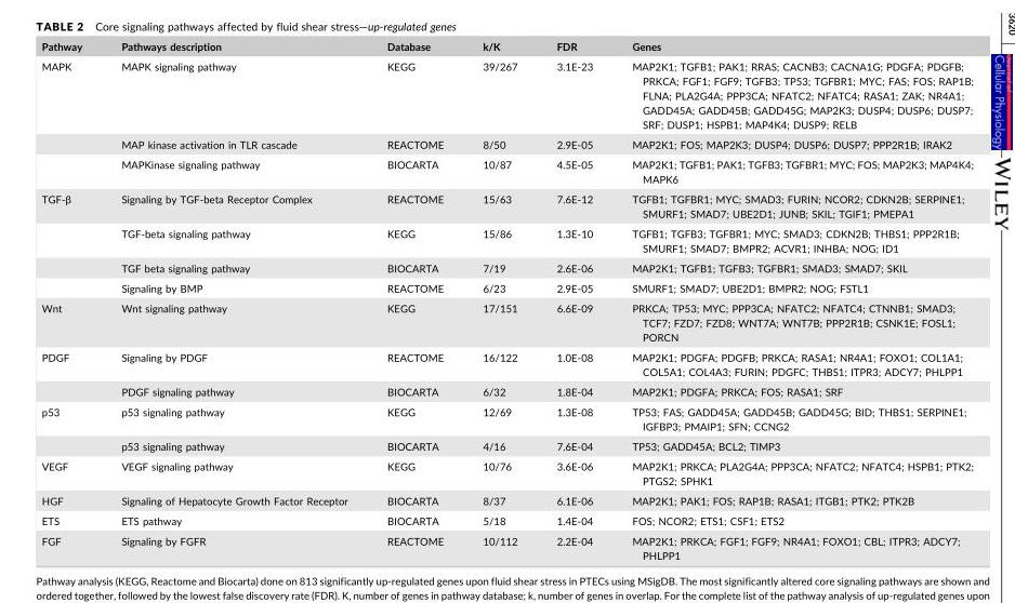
<table><thead><tr><td>Pathway</td><td>Pathways description</td><td>Database</td><td>k/K</td><td>FDR</td><td>Genes</td></tr></thead><tbody><tr><td rowspan="3">MAPK</td><td>MAPK signaling pathway</td><td>KEGG</td><td>39/267</td><td>3.1E-23</td><td>MAP2K1; TGFB1; PAK1; RRAS; CACNB3; CACNA1G; PDGFA; PDGFB; PRKCA; FGF1; FGF9; TGFB3; TP53; TGFBR1; MYC; FAS; FOS; RAP1B; FLNA; PLA2G4A; PPP3CA; NFATC2; NFATC4; RASA1; ZAK; NR4A1; GADD45A; GADD45B; GADD45G; MAP2K3; DUSP4; DUSP6; DUSP7; SRF; DUSP1; HSPB1; MAP4K4; DUSP9; RELB</td></tr><tr><td>MAP kinase activation in TLR cascade</td><td>REACTOME</td><td>8/50</td><td>2.9E-05</td><td>MAP2K1; FOS; MAP2K3; DUSP4; DUSP6; DUSP7; PPP2R1B; IRAK2</td></tr><tr><td>MAPKinase signaling pathway</td><td>BIOCARTA</td><td>10/87</td><td>4.5E-05</td><td>MAP2K1; TGFB1; PAK1; TGFB3; TGFBR1; MYC; FOS; MAP2K3; MAP4K4; MAPK6</td></tr><tr><td rowspan="4">TGF-β</td><td>Signaling by TGF-beta Receptor Complex</td><td>REACTOME</td><td>15/63</td><td>7.6E-12</td><td>TGFB1; TGFBR1; MYC; SMAD3; FURIN; NCOR2; CDKN2B; SERPINE1; SMURF1; SMAD7; UBE2D1; JUNB; SKIL; TGIF1; PMEPA1</td></tr><tr><td>TGF-beta signaling pathway</td><td>KEGG</td><td>15/86</td><td>1.3E-10</td><td>TGFB1; TGFB3; TGFBR1; MYC; SMAD3; CDKN2B; THBS1; PPP2R1B; SMURF1; SMAD7; BMPR2; ACVR1; INHBA; NOG; ID1</td></tr><tr><td>TGF beta signaling pathway</td><td>BIOCARTA</td><td>7/19</td><td>2.6E-06</td><td>MAP2K1; TGFB1; TGFB3; TGFBR1; SMAD3; SMAD7; SKIL</td></tr><tr><td>Signaling by BMP</td><td>REACTOME</td><td>6/23</td><td>2.9E-05</td><td>SMURF1; SMAD7; UBE2D1; BMPR2; NOG; FSTL1</td></tr><tr><td>Wnt</td><td>Wnt signaling pathway</td><td>KEGG</td><td>17/151</td><td>6.6E-09</td><td>PRKCA; TP53; MYC; PPP3CA; NFATC2; NFATC4; CTNNB1; SMAD3; TCF7; FZD7; FZD8; WNT7A; WNT7B; PPP2R1B; CSNK1E; FOSL1; PORCN</td></tr><tr><td rowspan="2">PDGF</td><td>Signaling by PDGF</td><td>REACTOME</td><td>16/122</td><td>1.0E-08</td><td>MAP2K1; PDGFA; PDGFB; PRKCA; RASA1; NR4A1; FOXO1; COL1A1; COL5A1; COL4A3; FURIN; PDGFC; THBS1; ITPR3; ADCY7; PHLPP1</td></tr><tr><td>PDGF signaling pathway</td><td>BIOCARTA</td><td>6/32</td><td>1.8E-04</td><td>MAP2K1; PDGFA; PRKCA; FOS; RASA1; SRF</td></tr><tr><td rowspan="2">p53</td><td>p53 signaling pathway</td><td>KEGG</td><td>12/69</td><td>1.3E-08</td><td>TP53; FAS; GADD45A; GADD45B; GADD45G; BID; THBS1; SERPINE1; IGFBP3; PMAIP1; SFN; CCNG2</td></tr><tr><td>p53 signaling pathway</td><td>BIOCARTA</td><td>4/16</td><td>7.6E-04</td><td>TP53; GADD45A; BCL2; TIMP3</td></tr><tr><td>VEGF</td><td>VEGF signaling pathway</td><td>KEGG</td><td>10/76</td><td>3.6E-06</td><td>MAP2K1; PRKCA; PLA2G4A; PPP3CA; NFATC2; NFATC4; HSPB1; PTK2; PTGS2; SPHK1</td></tr><tr><td>HGF</td><td>Signaling of Hepatocyte Growth Factor Receptor</td><td>BIOCARTA</td><td>8/37</td><td>6.1E-06</td><td>MAP2K1; PAK1; FOS; RAP1B; RASA1; ITGB1; PTK2; PTK2B</td></tr><tr><td>ETS</td><td>ETS pathway</td><td>BIOCARTA</td><td>5/18</td><td>1.4E-04</td><td>FOS; NCOR2; ETS1; CSF1; ETS2</td></tr><tr><td>FGF</td><td>Signaling by FGFR</td><td>REACTOME</td><td>10/112</td><td>2.2E-04</td><td>MAP2K1; PRKCA; FGF1; FGF9; NR4A1; FOXO1; CBL; ITPR3; ADCY7; PHLPP1</td></tr></tbody></table>